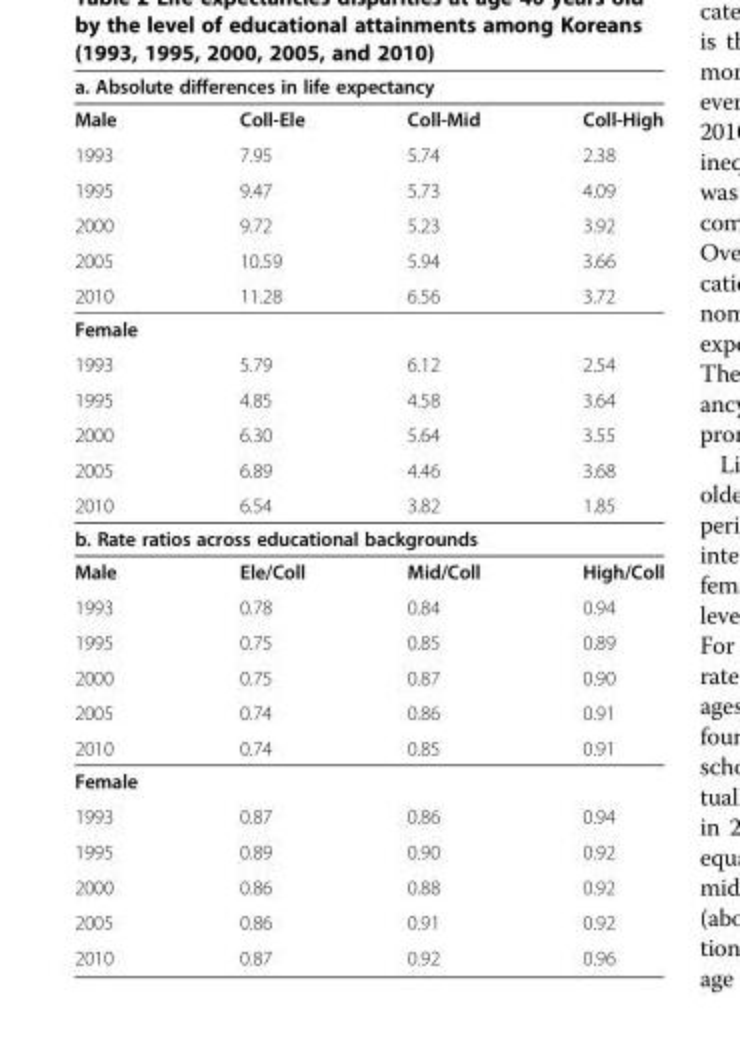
<table><thead><tr><td colspan="3">a. Absolute differences in life expectancy</td><td rowspan="2">Coll-High</td></tr><tr><td>Male</td><td>Coll-Ele</td><td>Coll-Mid</td></tr></thead><tbody><tr><td>1993</td><td>7.95</td><td>5.74</td><td>2.38</td></tr><tr><td>1995</td><td>9.47</td><td>5.73</td><td>4.09</td></tr><tr><td>2000</td><td>9.72</td><td>5.23</td><td>3.92</td></tr><tr><td>2005</td><td>10.59</td><td>5.94</td><td>3.66</td></tr><tr><td>2010</td><td>11.28</td><td>6.56</td><td>3.72</td></tr><tr><td colspan="4">Female</td></tr><tr><td>1993</td><td>5.79</td><td>6.12</td><td>2.54</td></tr><tr><td>1995</td><td>4.85</td><td>4.58</td><td>3.64</td></tr><tr><td>2000</td><td>6.30</td><td>5.64</td><td>3.55</td></tr><tr><td>2005</td><td>6.89</td><td>4.46</td><td>3.68</td></tr><tr><td>2010</td><td>6.54</td><td>3.82</td><td>1.85</td></tr><tr><td colspan="4">b. Rate ratios across educational backgrounds</td></tr><tr><td>Male</td><td>Ele/Coll</td><td>Mid/Coll</td><td>High/Coll</td></tr><tr><td>1993</td><td>0.78</td><td>0.84</td><td>0.94</td></tr><tr><td>1995</td><td>0.75</td><td>0.85</td><td>0.89</td></tr><tr><td>2000</td><td>0.75</td><td>0.87</td><td>0.90</td></tr><tr><td>2005</td><td>0.74</td><td>0.86</td><td>0.91</td></tr><tr><td>2010</td><td>0.74</td><td>0.85</td><td>0.91</td></tr><tr><td colspan="4">Female</td></tr><tr><td>1993</td><td>0.87</td><td>0.86</td><td>0.94</td></tr><tr><td>1995</td><td>0.89</td><td>0.90</td><td>0.92</td></tr><tr><td>2000</td><td>0.86</td><td>0.88</td><td>0.92</td></tr><tr><td>2005</td><td>0.86</td><td>0.91</td><td>0.92</td></tr><tr><td>2010</td><td>0.87</td><td>0.92</td><td>0.96</td></tr></tbody></table>